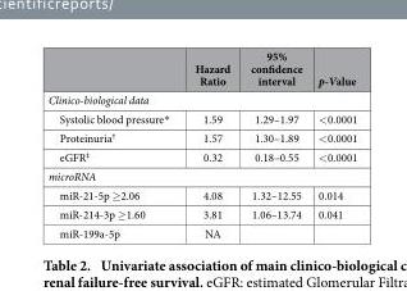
<table><thead><tr><td></td><td>Hazard Ratio</td><td>95% confidence interval</td><td>p-Value</td></tr></thead><tbody><tr><td colspan="4">Clinico-biological data</td></tr><tr><td>Systolic blood pressure*</td><td>1.59</td><td>1.29–1.97</td><td>&lt; 0.0001</td></tr><tr><td>Proteinuria<sup>†</sup></td><td>1.57</td><td>1.30–1.89</td><td>&lt; 0.0001</td></tr><tr><td>eGFR<sup>‡</sup></td><td>0.32</td><td>0.18–0.55</td><td>&lt; 0.0001</td></tr><tr><td colspan="4">microRNA</td></tr><tr><td>miR-21-5p ≥ 2.06</td><td>4.08</td><td>1.32–12.55</td><td>0.014</td></tr><tr><td>miR-214-3p ≥ 1.60</td><td>3.81</td><td>1.06–13.74</td><td>0.041</td></tr><tr><td>miR-199a-5p</td><td>NA</td><td></td><td></td></tr></tbody></table>